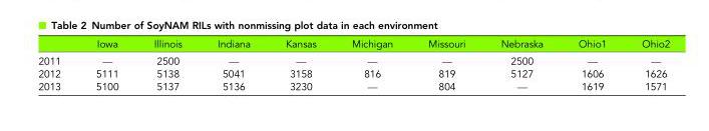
<table><thead><tr><td></td><td>Iowa</td><td>Illinois</td><td>Indiana</td><td>Kansas</td><td>Michigan</td><td>Missouri</td><td>Nebraska</td><td>Ohio1</td><td>Ohio2</td></tr></thead><tbody><tr><td>2011</td><td>—</td><td>2500</td><td>—</td><td>—</td><td>—</td><td>—</td><td>2500</td><td>—</td><td>—</td></tr><tr><td>2012</td><td>5111</td><td>5138</td><td>5041</td><td>3158</td><td>816</td><td>819</td><td>5127</td><td>1606</td><td>1626</td></tr><tr><td>2013</td><td>5100</td><td>5137</td><td>5136</td><td>3230</td><td>—</td><td>804</td><td>—</td><td>1619</td><td>1571</td></tr></tbody></table>